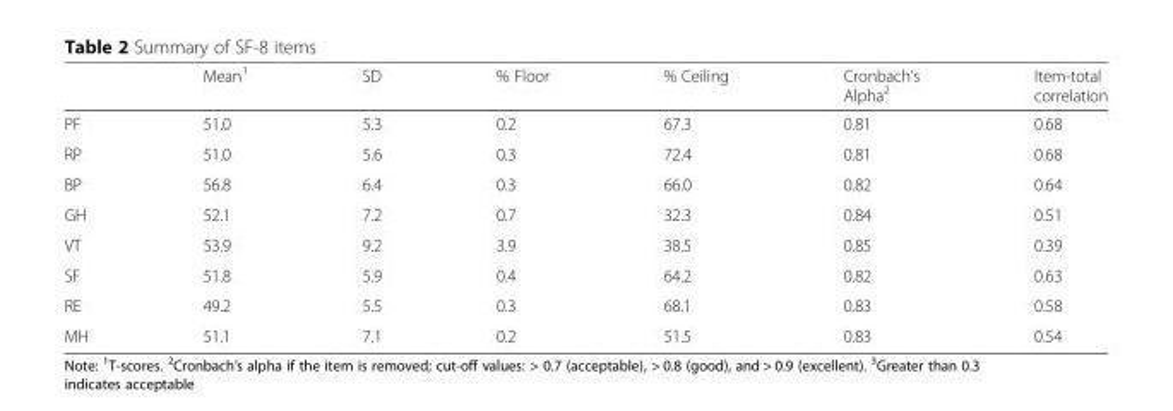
<table><thead><tr><td></td><td>Mean<sup>1</sup></td><td>SD</td><td>% Floor</td><td>% Ceiling</td><td>Cronbach’s Alpha<sup>2</sup></td><td>Item-total correlation</td></tr></thead><tbody><tr><td>PF</td><td>51.0</td><td>5.3</td><td>0.2</td><td>67.3</td><td>0.81</td><td>0.68</td></tr><tr><td>RP</td><td>51.0</td><td>5.6</td><td>0.3</td><td>72.4</td><td>0.81</td><td>0.68</td></tr><tr><td>BP</td><td>56.8</td><td>6.4</td><td>0.3</td><td>66.0</td><td>0.82</td><td>0.64</td></tr><tr><td>GH</td><td>52.1</td><td>7.2</td><td>0.7</td><td>32.3</td><td>0.84</td><td>0.51</td></tr><tr><td>VT</td><td>53.9</td><td>9.2</td><td>3.9</td><td>38.5</td><td>0.85</td><td>0.39</td></tr><tr><td>SF</td><td>51.8</td><td>5.9</td><td>0.4</td><td>64.2</td><td>0.82</td><td>0.63</td></tr><tr><td>RE</td><td>49.2</td><td>5.5</td><td>0.3</td><td>68.1</td><td>0.83</td><td>0.58</td></tr><tr><td>MH</td><td>51.1</td><td>7.1</td><td>0.2</td><td>51.5</td><td>0.83</td><td>0.54</td></tr></tbody></table>